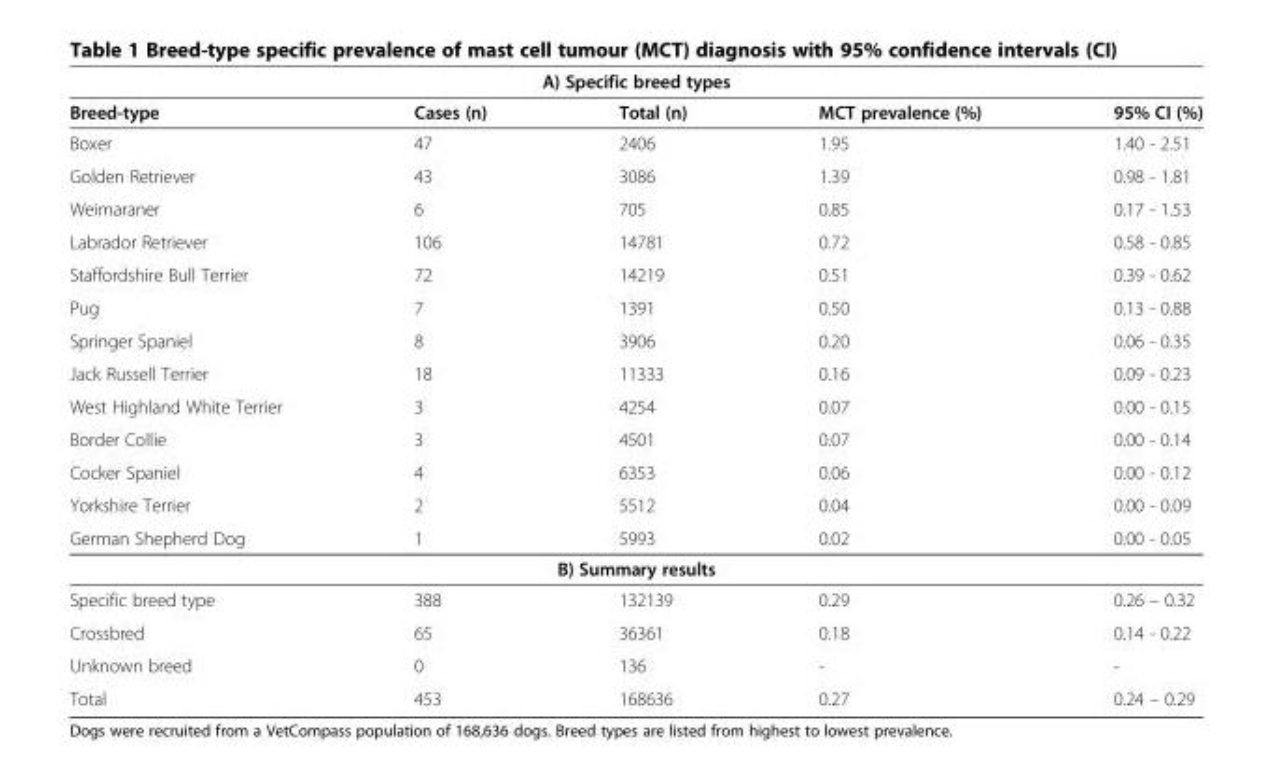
<table><tbody><tr><td colspan="5">A) Specific breed types</td></tr><tr><td>Breed-type</td><td>Cases (n)</td><td>Total (n)</td><td>MCT prevalence (%)</td><td>95% CI (%)</td></tr><tr><td>Boxer</td><td>47</td><td>2406</td><td>1.95</td><td>1.40 - 2.51</td></tr><tr><td>Golden Retriever</td><td>43</td><td>3086</td><td>1.39</td><td>0.98 - 1.81</td></tr><tr><td>Weimaraner</td><td>6</td><td>705</td><td>0.85</td><td>0.17 - 1.53</td></tr><tr><td>Labrador Retriever</td><td>106</td><td>14781</td><td>0.72</td><td>0.58 - 0.85</td></tr><tr><td>Staffordshire Bull Terrier</td><td>72</td><td>14219</td><td>0.51</td><td>0.39 - 0.62</td></tr><tr><td>Pug</td><td>7</td><td>1391</td><td>0.50</td><td>0.13 - 0.88</td></tr><tr><td>Springer Spaniel</td><td>8</td><td>3906</td><td>0.20</td><td>0.06 - 0.35</td></tr><tr><td>Jack Russell Terrier</td><td>18</td><td>11333</td><td>0.16</td><td>0.09 - 0.23</td></tr><tr><td>West Highland White Terrier</td><td>3</td><td>4254</td><td>0.07</td><td>0.00 - 0.15</td></tr><tr><td>Border Collie</td><td>3</td><td>4501</td><td>0.07</td><td>0.00 - 0.14</td></tr><tr><td>Cocker Spaniel</td><td>4</td><td>6353</td><td>0.06</td><td>0.00 - 0.12</td></tr><tr><td>Yorkshire Terrier</td><td>2</td><td>5512</td><td>0.04</td><td>0.00 - 0.09</td></tr><tr><td>German Shepherd Dog</td><td>1</td><td>5993</td><td>0.02</td><td>0.00 - 0.05</td></tr><tr><td colspan="5">B) Summary results</td></tr><tr><td>Specific breed type</td><td>388</td><td>132139</td><td>0.29</td><td>0.26 – 0.32</td></tr><tr><td>Crossbred</td><td>65</td><td>36361</td><td>0.18</td><td>0.14 - 0.22</td></tr><tr><td>Unknown breed</td><td>0</td><td>136</td><td>-</td><td>-</td></tr><tr><td>Total</td><td>453</td><td>168636</td><td>0.27</td><td>0.24 – 0.29</td></tr></tbody></table>